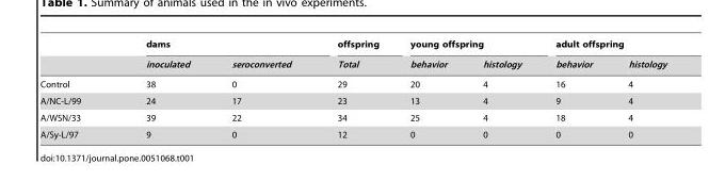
<table><thead><tr><td rowspan="2"></td><td colspan="2">dams</td><td rowspan="2">offspring Total</td><td colspan="2">young offspring</td><td colspan="2">adult offspring</td></tr><tr><td>inoculated</td><td>seroconverted</td><td>behavior</td><td>histology</td><td>behavior</td><td>histology</td></tr></thead><tbody><tr><td>Control</td><td>38</td><td>0</td><td>29</td><td>20</td><td>4</td><td>16</td><td>4</td></tr><tr><td>A/NC-L/99</td><td>24</td><td>17</td><td>23</td><td>13</td><td>4</td><td>9</td><td>4</td></tr><tr><td>A/WSN/33</td><td>39</td><td>22</td><td>34</td><td>25</td><td>4</td><td>18</td><td>4</td></tr><tr><td>A/Sy-L/97</td><td>9</td><td>0</td><td>12</td><td>0</td><td>0</td><td>0</td><td>0</td></tr></tbody></table>